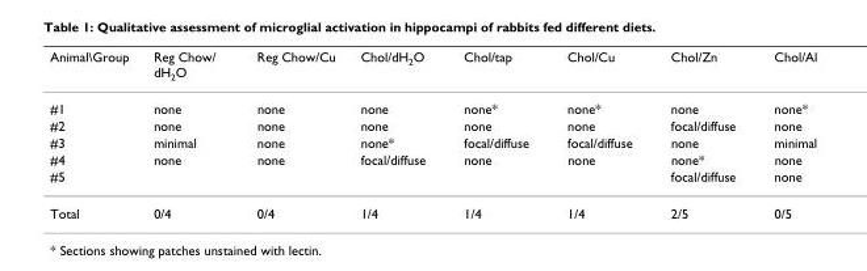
<table><thead><tr><td>Animal\Group</td><td>Reg Chow/ dH<sub>2</sub>O</td><td>Reg Chow/Cu</td><td>Chol/dH<sub>2</sub>O</td><td>Chol/tap</td><td>Chol/Cu</td><td>Chol/Zn</td><td>Chol/Al</td></tr></thead><tbody><tr><td>#1</td><td>none</td><td>none</td><td>none</td><td>none*</td><td>none*</td><td>none</td><td>none*</td></tr><tr><td>#2</td><td>none</td><td>none</td><td>none</td><td>none</td><td>none</td><td>focal/diffuse</td><td>none</td></tr><tr><td>#3</td><td>minimal</td><td>none</td><td>none*</td><td>focal/diffuse</td><td>focal/diffuse</td><td>none</td><td>minimal</td></tr><tr><td>#4</td><td>none</td><td>none</td><td>focal/diffuse</td><td>none</td><td>none</td><td>none*</td><td>none</td></tr><tr><td>#5</td><td></td><td></td><td></td><td></td><td></td><td>focal/diffuse</td><td>none</td></tr><tr><td>Total</td><td>0/4</td><td>0/4</td><td>1/4</td><td>1/4</td><td>1/4</td><td>2/5</td><td>0/5</td></tr></tbody></table>